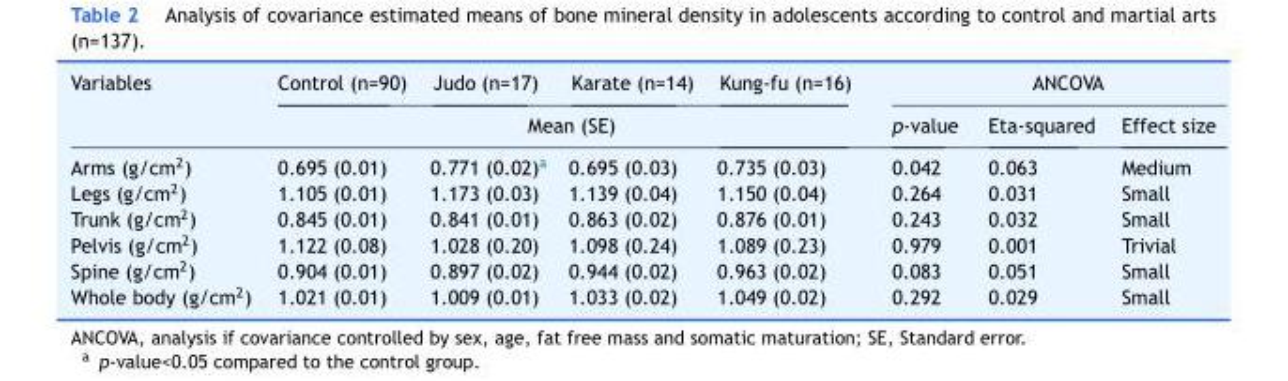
<table><thead><tr><td rowspan="2">Variables</td><td>Control (n=90)</td><td>Judo (n=17)</td><td>Karate (n=14)</td><td>Kung-fu (n=16)</td><td colspan="3">ANCOVA</td></tr><tr><td colspan="4">Mean (SE)</td><td>p-value</td><td>Eta-squared</td><td>Effect size</td></tr></thead><tbody><tr><td>Arms (g/cm<sup>2</sup>)</td><td>0.695 (0.01)</td><td>0.771 (0.02)<sup>a</sup></td><td>0.695 (0.03)</td><td>0.735 (0.03)</td><td>0.042</td><td>0.063</td><td>Medium</td></tr><tr><td>Legs (g/cm<sup>2</sup>)</td><td>1.105 (0.01)</td><td>1.173 (0.03)</td><td>1.139 (0.04)</td><td>1.150 (0.04)</td><td>0.264</td><td>0.031</td><td>Small</td></tr><tr><td>Trunk (g/cm<sup>2</sup>)</td><td>0.845 (0.01)</td><td>0.841 (0.01)</td><td>0.863 (0.02)</td><td>0.876 (0.01)</td><td>0.243</td><td>0.032</td><td>Small</td></tr><tr><td>Pelvis (g/cm<sup>2</sup>)</td><td>1.122 (0.08)</td><td>1.028 (0.20)</td><td>1.098 (0.24)</td><td>1.089 (0.23)</td><td>0.979</td><td>0.001</td><td>Trivial</td></tr><tr><td>Spine (g/cm<sup>2</sup>)</td><td>0.904 (0.01)</td><td>0.897 (0.02)</td><td>0.944 (0.02)</td><td>0.963 (0.02)</td><td>0.083</td><td>0.051</td><td>Small</td></tr><tr><td>Whole body (g/cm<sup>2</sup>)</td><td>1.021 (0.01)</td><td>1.009 (0.01)</td><td>1.033 (0.02)</td><td>1.049 (0.02)</td><td>0.292</td><td>0.029</td><td>Small</td></tr></tbody></table>